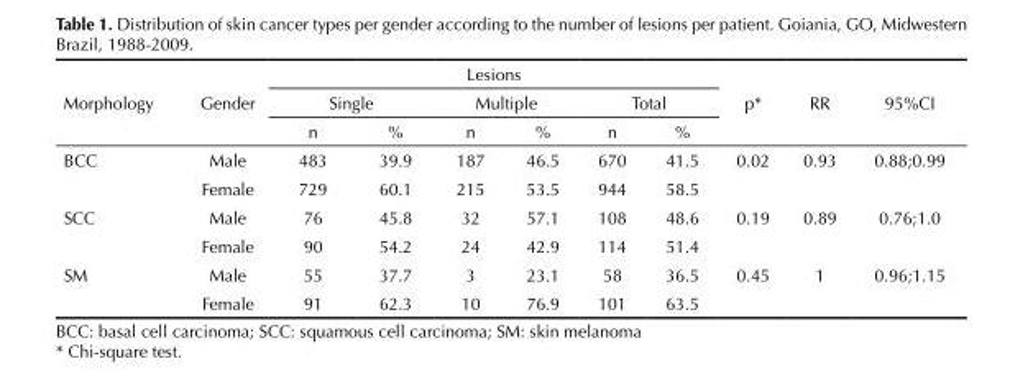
<table><thead><tr><td rowspan="3">Morphology</td><td rowspan="3">Gender</td><td colspan="6">Lesions</td><td rowspan="3">p*</td><td rowspan="3">RR</td><td rowspan="3">95%CI</td></tr><tr><td colspan="2">Single</td><td colspan="2">Multiple</td><td colspan="2">Total</td></tr><tr><td>n</td><td>%</td><td>n</td><td>%</td><td>n</td><td>%</td></tr></thead><tbody><tr><td rowspan="2">BCC</td><td>Male</td><td>483</td><td>39.9</td><td>187</td><td>46.5</td><td>670</td><td>41.5</td><td>0.02</td><td>0.93</td><td>0.88;0.99</td></tr><tr><td>Female</td><td>729</td><td>60.1</td><td>215</td><td>53.5</td><td>944</td><td>58.5</td><td></td><td></td><td></td></tr><tr><td rowspan="2">SCC</td><td>Male</td><td>76</td><td>45.8</td><td>32</td><td>57.1</td><td>108</td><td>48.6</td><td>0.19</td><td>0.89</td><td>0.76;1.0</td></tr><tr><td>Female</td><td>90</td><td>54.2</td><td>24</td><td>42.9</td><td>114</td><td>51.4</td><td></td><td></td><td></td></tr><tr><td rowspan="2">SM</td><td>Male</td><td>55</td><td>37.7</td><td>3</td><td>23.1</td><td>58</td><td>36.5</td><td>0.45</td><td>1</td><td>0.96;1.15</td></tr><tr><td>Female</td><td>91</td><td>62.3</td><td>10</td><td>76.9</td><td>101</td><td>63.5</td><td></td><td></td><td></td></tr></tbody></table>